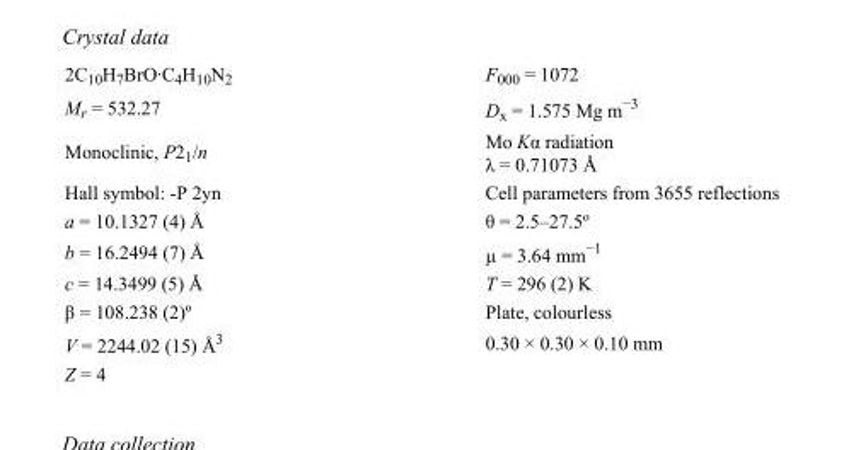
<table><tbody><tr><td>2C<sub>10</sub>H<sub>7</sub>BrO·C<sub>4</sub>H<sub>10</sub>N<sub>2</sub></td><td>F<sub>000</sub> = 1072</td></tr><tr><td>M<sub>r</sub> = 532.27</td><td>D<sub>x</sub> = 1.575 Mg m<sup>−3</sup></td></tr><tr><td>Monoclinic, P2<sub>1</sub>/n</td><td>Mo Kα radiation λ = 0.71073 Å</td></tr><tr><td>Hall symbol: -P 2yn</td><td>Cell parameters from 3655 reflections</td></tr><tr><td>a = 10.1327 (4) Å</td><td>θ = 2.5–27.5º</td></tr><tr><td>b = 16.2494 (7) Å</td><td>µ = 3.64 mm<sup>−1</sup></td></tr><tr><td>c = 14.3499 (5) Å</td><td>T = 296 (2) K</td></tr><tr><td>β = 108.238 (2)º</td><td>Plate, colourless</td></tr><tr><td>V = 2244.02 (15) Å<sup>3</sup></td><td>0.30 × 0.30 × 0.10 mm</td></tr><tr><td>Z = 4</td><td></td></tr></tbody></table>